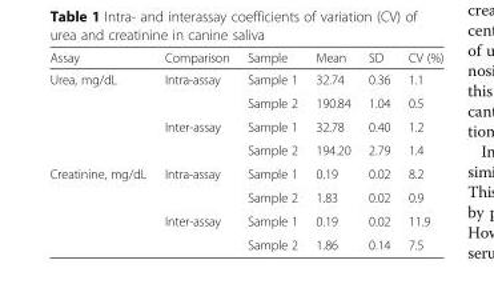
<table><thead><tr><td>Assay</td><td>Comparison</td><td>Sample</td><td>Mean</td><td>SD</td><td>CV (%)</td></tr></thead><tbody><tr><td rowspan="4">Urea, mg/dL</td><td rowspan="2">Intra-assay</td><td>Sample 1</td><td>32.74</td><td>0.36</td><td>1.1</td></tr><tr><td>Sample 2</td><td>190.84</td><td>1.04</td><td>0.5</td></tr><tr><td rowspan="2">Inter-assay</td><td>Sample 1</td><td>32.78</td><td>0.40</td><td>1.2</td></tr><tr><td>Sample 2</td><td>194.20</td><td>2.79</td><td>1.4</td></tr><tr><td rowspan="4">Creatinine, mg/dL</td><td rowspan="2">Intra-assay</td><td>Sample 1</td><td>0.19</td><td>0.02</td><td>8.2</td></tr><tr><td>Sample 2</td><td>1.83</td><td>0.02</td><td>0.9</td></tr><tr><td rowspan="2">Inter-assay</td><td>Sample 1</td><td>0.19</td><td>0.02</td><td>11.9</td></tr><tr><td>Sample 2</td><td>1.86</td><td>0.14</td><td>7.5</td></tr></tbody></table>